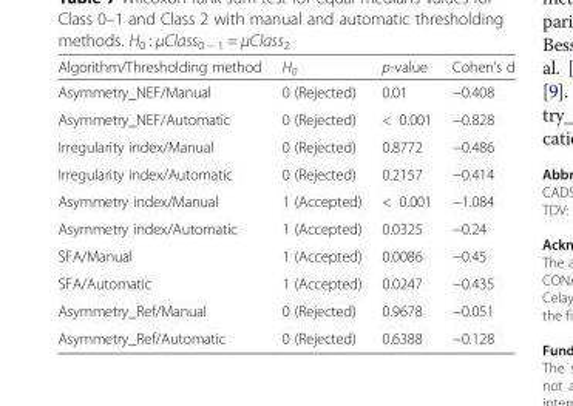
<table><thead><tr><td>Algorithm/Thresholding method</td><td>H<sub>0</sub></td><td>p-value</td><td>Cohen’s d</td></tr></thead><tbody><tr><td>Asymmetry_NEF/Manual</td><td>0 (Rejected)</td><td>0.01</td><td>−0.408</td></tr><tr><td>Asymmetry_NEF/Automatic</td><td>0 (Rejected)</td><td>&lt; 0.001</td><td>−0.828</td></tr><tr><td>Irregularity index/Manual</td><td>0 (Rejected)</td><td>0.8772</td><td>−0.486</td></tr><tr><td>Irregularity index/Automatic</td><td>0 (Rejected)</td><td>0.2157</td><td>−0.414</td></tr><tr><td>Asymmetry index/Manual</td><td>1 (Accepted)</td><td>&lt; 0.001</td><td>−1.084</td></tr><tr><td>Asymmetry index/Automatic</td><td>1 (Accepted)</td><td>0.0325</td><td>−0.24</td></tr><tr><td>SFA/Manual</td><td>1 (Accepted)</td><td>0.0086</td><td>−0.45</td></tr><tr><td>SFA/Automatic</td><td>1 (Accepted)</td><td>0.0247</td><td>−0.435</td></tr><tr><td>Asymmetry_Ref/Manual</td><td>0 (Rejected)</td><td>0.9678</td><td>−0.051</td></tr><tr><td>Asymmetry_Ref/Automatic</td><td>0 (Rejected)</td><td>0.6388</td><td>−0.128</td></tr></tbody></table>